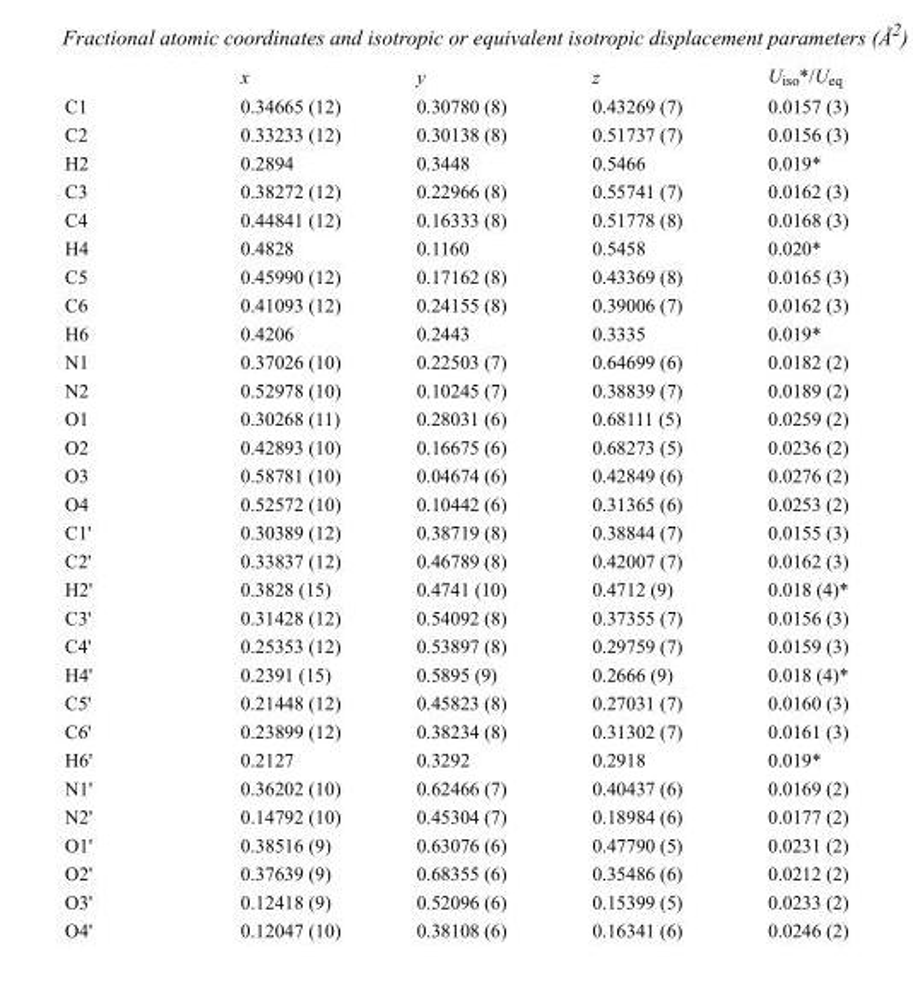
<table><thead><tr><td></td><td>x</td><td>y</td><td>z</td><td>U<sub>iso</sub>*/U<sub>eq</sub></td></tr></thead><tbody><tr><td>C1</td><td>0.34665 (12)</td><td>0.30780 (8)</td><td>0.43269 (7)</td><td>0.0157 (3)</td></tr><tr><td>C2</td><td>0.33233 (12)</td><td>0.30138 (8)</td><td>0.51737 (7)</td><td>0.0156 (3)</td></tr><tr><td>H2</td><td>0.2894</td><td>0.3448</td><td>0.5466</td><td>0.019*</td></tr><tr><td>C3</td><td>0.38272 (12)</td><td>0.22966 (8)</td><td>0.55741 (7)</td><td>0.0162 (3)</td></tr><tr><td>C4</td><td>0.44841 (12)</td><td>0.16333 (8)</td><td>0.51778 (8)</td><td>0.0168 (3)</td></tr><tr><td>H4</td><td>0.4828</td><td>0.1160</td><td>0.5458</td><td>0.020*</td></tr><tr><td>C5</td><td>0.45990 (12)</td><td>0.17162 (8)</td><td>0.43369 (8)</td><td>0.0165 (3)</td></tr><tr><td>C6</td><td>0.41093 (12)</td><td>0.24155 (8)</td><td>0.39006 (7)</td><td>0.0162 (3)</td></tr><tr><td>H6</td><td>0.4206</td><td>0.2443</td><td>0.3335</td><td>0.019*</td></tr><tr><td>N1</td><td>0.37026 (10)</td><td>0.22503 (7)</td><td>0.64699 (6)</td><td>0.0182 (2)</td></tr><tr><td>N2</td><td>0.52978 (10)</td><td>0.10245 (7)</td><td>0.38839 (7)</td><td>0.0189 (2)</td></tr><tr><td>O1</td><td>0.30268 (11)</td><td>0.28031 (6)</td><td>0.68111 (5)</td><td>0.0259 (2)</td></tr><tr><td>O2</td><td>0.42893 (10)</td><td>0.16675 (6)</td><td>0.68273 (5)</td><td>0.0236 (2)</td></tr><tr><td>O3</td><td>0.58781 (10)</td><td>0.04674 (6)</td><td>0.42849 (6)</td><td>0.0276 (2)</td></tr><tr><td>O4</td><td>0.52572 (10)</td><td>0.10442 (6)</td><td>0.31365 (6)</td><td>0.0253 (2)</td></tr><tr><td>C1&#x27;</td><td>0.30389 (12)</td><td>0.38719 (8)</td><td>0.38844 (7)</td><td>0.0155 (3)</td></tr><tr><td>C2&#x27;</td><td>0.33837 (12)</td><td>0.46789 (8)</td><td>0.42007 (7)</td><td>0.0162 (3)</td></tr><tr><td>H2&#x27;</td><td>0.3828 (15)</td><td>0.4741 (10)</td><td>0.4712 (9)</td><td>0.018 (4)*</td></tr><tr><td>C3&#x27;</td><td>0.31428 (12)</td><td>0.54092 (8)</td><td>0.37355 (7)</td><td>0.0156 (3)</td></tr><tr><td>C4&#x27;</td><td>0.25353 (12)</td><td>0.53897 (8)</td><td>0.29759 (7)</td><td>0.0159 (3)</td></tr><tr><td>H4&#x27;</td><td>0.2391 (15)</td><td>0.5895 (9)</td><td>0.2666 (9)</td><td>0.018 (4)*</td></tr><tr><td>C5&#x27;</td><td>0.21448 (12)</td><td>0.45823 (8)</td><td>0.27031 (7)</td><td>0.0160 (3)</td></tr><tr><td>C6&#x27;</td><td>0.23899 (12)</td><td>0.38234 (8)</td><td>0.31302 (7)</td><td>0.0161 (3)</td></tr><tr><td>H6&#x27;</td><td>0.2127</td><td>0.3292</td><td>0.2918</td><td>0.019*</td></tr><tr><td>N1&#x27;</td><td>0.36202 (10)</td><td>0.62466 (7)</td><td>0.40437 (6)</td><td>0.0169 (2)</td></tr><tr><td>N2&#x27;</td><td>0.14792 (10)</td><td>0.45304 (7)</td><td>0.18984 (6)</td><td>0.0177 (2)</td></tr><tr><td>O1&#x27;</td><td>0.38516 (9)</td><td>0.63076 (6)</td><td>0.47790 (5)</td><td>0.0231 (2)</td></tr><tr><td>O2&#x27;</td><td>0.37639 (9)</td><td>0.68355 (6)</td><td>0.35486 (6)</td><td>0.0212 (2)</td></tr><tr><td>O3&#x27;</td><td>0.12418 (9)</td><td>0.52096 (6)</td><td>0.15399 (5)</td><td>0.0233 (2)</td></tr><tr><td>O4&#x27;</td><td>0.12047 (10)</td><td>0.38108 (6)</td><td>0.16341 (6)</td><td>0.0246 (2)</td></tr></tbody></table>